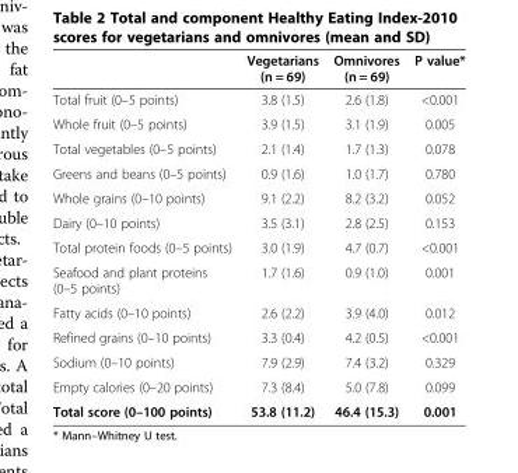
<table><thead><tr><td></td><td>Vegetarians (n = 69)</td><td>Omnivores (n = 69)</td><td>P value*</td></tr></thead><tbody><tr><td>Total fruit (0–5 points)</td><td>3.8 (1.5)</td><td>2.6 (1.8)</td><td>&lt;0.001</td></tr><tr><td>Whole fruit (0–5 points)</td><td>3.9 (1.5)</td><td>3.1 (1.9)</td><td>0.005</td></tr><tr><td>Total vegetables (0–5 points)</td><td>2.1 (1.4)</td><td>1.7 (1.3)</td><td>0.078</td></tr><tr><td>Greens and beans (0–5 points)</td><td>0.9 (1.6)</td><td>1.0 (1.7)</td><td>0.780</td></tr><tr><td>Whole grains (0–10 points)</td><td>9.1 (2.2)</td><td>8.2 (3.2)</td><td>0.052</td></tr><tr><td>Dairy (0–10 points)</td><td>3.5 (3.1)</td><td>2.8 (2.5)</td><td>0.153</td></tr><tr><td>Total protein foods (0–5 points)</td><td>3.0 (1.9)</td><td>4.7 (0.7)</td><td>&lt;0.001</td></tr><tr><td>Seafood and plant proteins (0–5 points)</td><td>1.7 (1.6)</td><td>0.9 (1.0)</td><td>0.001</td></tr><tr><td>Fatty acids (0–10 points)</td><td>2.6 (2.2)</td><td>3.9 (4.0)</td><td>0.012</td></tr><tr><td>Refined grains (0–10 points)</td><td>3.3 (0.4)</td><td>4.2 (0.5)</td><td>&lt;0.001</td></tr><tr><td>Sodium (0–10 points)</td><td>7.9 (2.9)</td><td>7.4 (3.2)</td><td>0.329</td></tr><tr><td>Empty calories (0–20 points)</td><td>7.3 (8.4)</td><td>5.0 (7.8)</td><td>0.099</td></tr><tr><td>Total score (0–100 points)</td><td>53.8 (11.2)</td><td>46.4 (15.3)</td><td>0.001</td></tr></tbody></table>